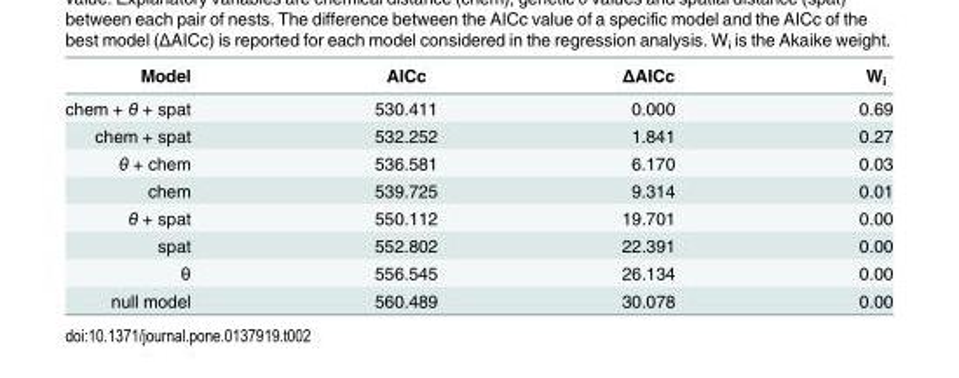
<table><thead><tr><td>Model</td><td>AICc</td><td>ΔAICc</td><td>W<sub>i</sub></td></tr></thead><tbody><tr><td>chem + θ + spat</td><td>530.411</td><td>0.000</td><td>0.69</td></tr><tr><td>chem + spat</td><td>532.252</td><td>1.841</td><td>0.27</td></tr><tr><td>θ + chem</td><td>536.581</td><td>6.170</td><td>0.03</td></tr><tr><td>chem</td><td>539.725</td><td>9.314</td><td>0.01</td></tr><tr><td>θ + spat</td><td>550.112</td><td>19.701</td><td>0.00</td></tr><tr><td>spat</td><td>552.802</td><td>22.391</td><td>0.00</td></tr><tr><td>θ</td><td>556.545</td><td>26.134</td><td>0.00</td></tr><tr><td>null model</td><td>560.489</td><td>30.078</td><td>0.00</td></tr></tbody></table>